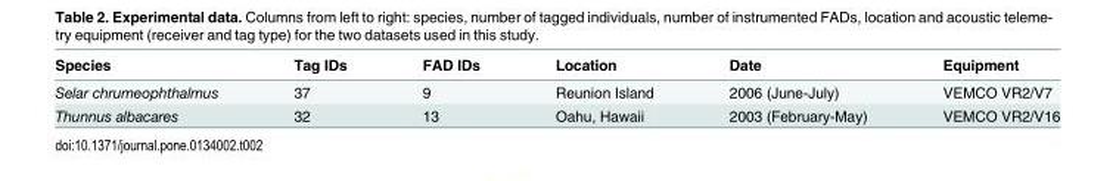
<table><thead><tr><td>Species</td><td>Tag IDs</td><td>FAD IDs</td><td>Location</td><td>Date</td><td>Equipment</td></tr></thead><tbody><tr><td>Selar chrumeophthalmus</td><td>37</td><td>9</td><td>Reunion Island</td><td>2006 (June-July)</td><td>VEMCO VR2/V7</td></tr><tr><td>Thunnus albacares</td><td>32</td><td>13</td><td>Oahu, Hawaii</td><td>2003 (February-May)</td><td>VEMCO VR2/V16</td></tr></tbody></table>